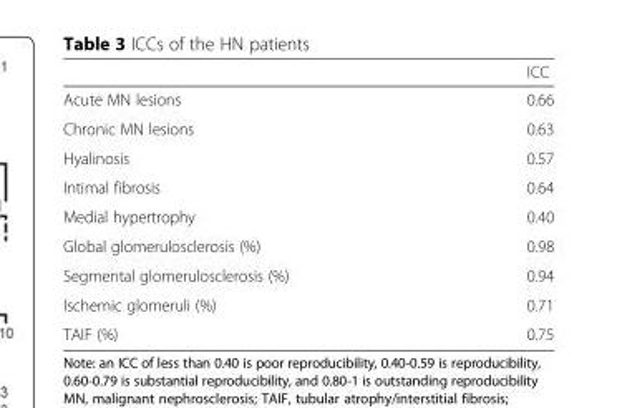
<table><thead><tr><td></td><td>ICC</td></tr></thead><tbody><tr><td>Acute MN lesions</td><td>0.66</td></tr><tr><td>Chronic MN lesions</td><td>0.63</td></tr><tr><td>Hyalinosis</td><td>0.57</td></tr><tr><td>Intimal fibrosis</td><td>0.64</td></tr><tr><td>Medial hypertrophy</td><td>0.40</td></tr><tr><td>Global glomerulosclerosis (%)</td><td>0.98</td></tr><tr><td>Segmental glomerulosclerosis (%)</td><td>0.94</td></tr><tr><td>Ischemic glomeruli (%)</td><td>0.71</td></tr><tr><td>TAIF (%)</td><td>0.75</td></tr></tbody></table>